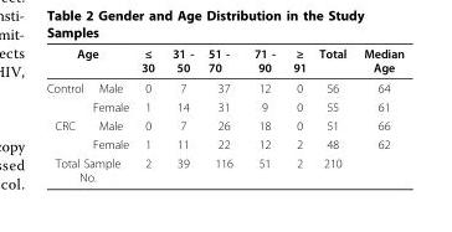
<table><thead><tr><td colspan="2">Age</td><td rowspan="2">≤ 30 0</td><td rowspan="2">31 - 50 7</td><td rowspan="2">51 - 70 37</td><td rowspan="2">71 - 90 12</td><td rowspan="2">≥ 91 0</td><td rowspan="2">Total 56</td><td rowspan="2">Median Age 64</td></tr><tr><td>Control</td><td>Male</td></tr></thead><tbody><tr><td></td><td>Female</td><td>1</td><td>14</td><td>31</td><td>9</td><td>0</td><td>55</td><td>61</td></tr><tr><td rowspan="2">CRC</td><td>Male</td><td>0</td><td>7</td><td>26</td><td>18</td><td>0</td><td>51</td><td>66</td></tr><tr><td>Female</td><td>1</td><td>11</td><td>22</td><td>12</td><td>2</td><td>48</td><td>62</td></tr><tr><td colspan="2">Total Sample No.</td><td>2</td><td>39</td><td>116</td><td>51</td><td>2</td><td>210</td><td></td></tr></tbody></table>